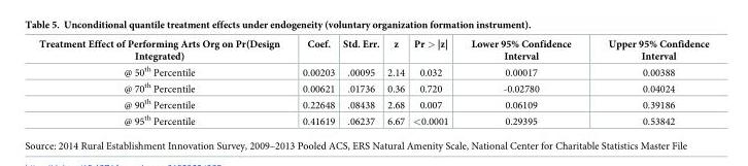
<table><thead><tr><td>Treatment Effect of Performing Arts Org on Pr(Design Integrated)</td><td>Coef.</td><td>Std. Err.</td><td>z</td><td>Pr &gt; |z|</td><td>Lower 95% Confidence Interval</td><td>Upper 95% Confidence Interval</td></tr></thead><tbody><tr><td>@ 50<sup>th</sup> Percentile</td><td>0.00203</td><td>.00095</td><td>2.14</td><td>0.032</td><td>0.00017</td><td>0.00388</td></tr><tr><td>@ 70<sup>th</sup> Percentile</td><td>0.00621</td><td>.01736</td><td>0.36</td><td>0.720</td><td>-0.02780</td><td>0.04024</td></tr><tr><td>@ 90<sup>th</sup> Percentile</td><td>0.22648</td><td>.08438</td><td>2.68</td><td>0.007</td><td>0.06109</td><td>0.39186</td></tr><tr><td>@ 95<sup>th</sup> Percentile</td><td>0.41619</td><td>.06237</td><td>6.67</td><td>&lt;0.0001</td><td>0.29395</td><td>0.53842</td></tr></tbody></table>